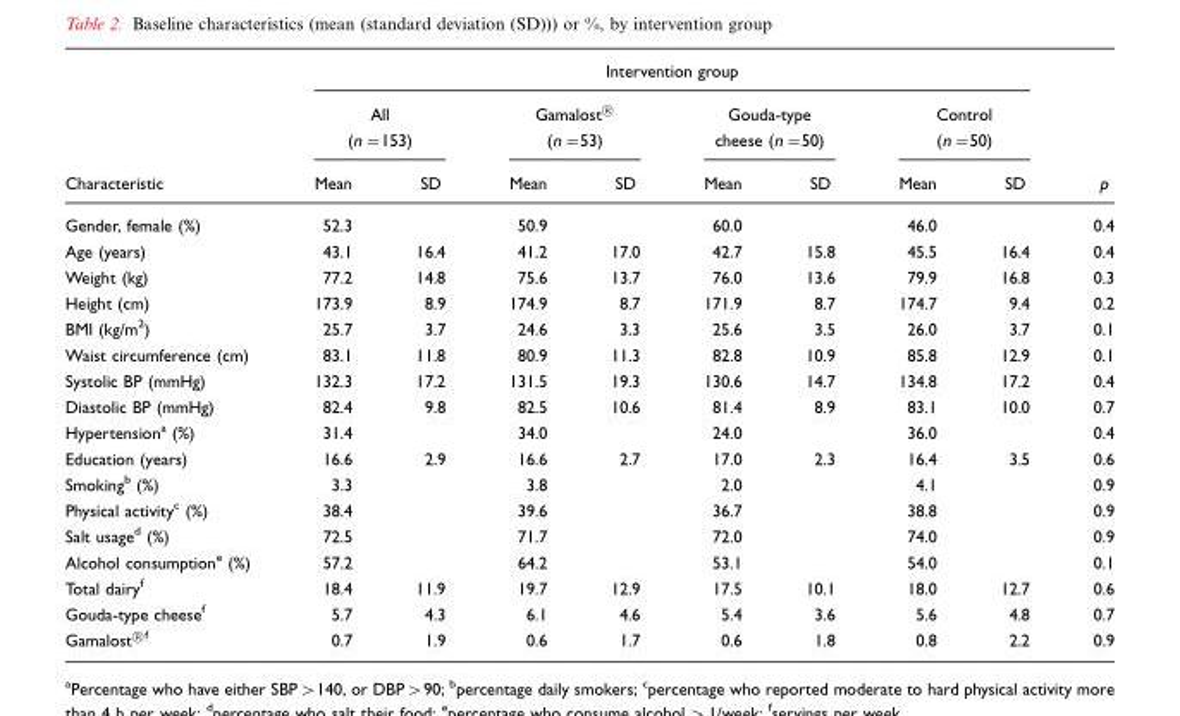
<table><thead><tr><td rowspan="3">Characteristic</td><td colspan="8">Intervention group</td><td rowspan="3">p</td></tr><tr><td colspan="2">All (n=153)</td><td colspan="2">Gamalost† (n�53)</td><td colspan="2">Gouda-type cheese (n=50)</td><td colspan="2">Control (n=50)</td></tr><tr><td>Mean</td><td>SD</td><td>Mean</td><td>SD</td><td>Mean</td><td>SD</td><td>Mean</td><td>SD</td></tr></thead><tbody><tr><td>Gender, female (%)</td><td>52.3</td><td></td><td>50.9</td><td></td><td>60.0</td><td></td><td>46.0</td><td></td><td>0.4</td></tr><tr><td>Age (years)</td><td>43.1</td><td>16.4</td><td>41.2</td><td>17.0</td><td>42.7</td><td>15.8</td><td>45.5</td><td>16.4</td><td>0.4</td></tr><tr><td>Weight (kg)</td><td>77.2</td><td>14.8</td><td>75.6</td><td>13.7</td><td>76.0</td><td>13.6</td><td>79.9</td><td>16.8</td><td>0.3</td></tr><tr><td>Height (cm)</td><td>173.9</td><td>8.9</td><td>174.9</td><td>8.7</td><td>171.9</td><td>8.7</td><td>174.7</td><td>9.4</td><td>0.2</td></tr><tr><td>BMI (kg/m<sup>2</sup>)</td><td>25.7</td><td>3.7</td><td>24.6</td><td>3.3</td><td>25.6</td><td>3.5</td><td>26.0</td><td>3.7</td><td>0.1</td></tr><tr><td>Waist circumference (cm)</td><td>83.1</td><td>11.8</td><td>80.9</td><td>11.3</td><td>82.8</td><td>10.9</td><td>85.8</td><td>12.9</td><td>0.1</td></tr><tr><td>Systolic BP (mmHg)</td><td>132.3</td><td>17.2</td><td>131.5</td><td>19.3</td><td>130.6</td><td>14.7</td><td>134.8</td><td>17.2</td><td>0.4</td></tr><tr><td>Diastolic BP (mmHg)</td><td>82.4</td><td>9.8</td><td>82.5</td><td>10.6</td><td>81.4</td><td>8.9</td><td>83.1</td><td>10.0</td><td>0.7</td></tr><tr><td>Hypertension<sup>a</sup> (%)</td><td>31.4</td><td></td><td>34.0</td><td></td><td>24.0</td><td></td><td>36.0</td><td></td><td>0.4</td></tr><tr><td>Education (years)</td><td>16.6</td><td>2.9</td><td>16.6</td><td>2.7</td><td>17.0</td><td>2.3</td><td>16.4</td><td>3.5</td><td>0.6</td></tr><tr><td>Smoking<sup>b</sup> (%)</td><td>3.3</td><td></td><td>3.8</td><td></td><td>2.0</td><td></td><td>4.1</td><td></td><td>0.9</td></tr><tr><td>Physical activity<sup>c</sup> (%)</td><td>38.4</td><td></td><td>39.6</td><td></td><td>36.7</td><td></td><td>38.8</td><td></td><td>0.9</td></tr><tr><td>Salt usage<sup>d</sup> (%)</td><td>72.5</td><td></td><td>71.7</td><td></td><td>72.0</td><td></td><td>74.0</td><td></td><td>0.9</td></tr><tr><td>Alcohol consumption<sup>e</sup> (%)</td><td>57.2</td><td></td><td>64.2</td><td></td><td>53.1</td><td></td><td>54.0</td><td></td><td>0.1</td></tr><tr><td>Total dairy<sup>f</sup></td><td>18.4</td><td>11.9</td><td>19.7</td><td>12.9</td><td>17.5</td><td>10.1</td><td>18.0</td><td>12.7</td><td>0.6</td></tr><tr><td>Gouda-type cheese<sup>f</sup></td><td>5.7</td><td>4.3</td><td>6.1</td><td>4.6</td><td>5.4</td><td>3.6</td><td>5.6</td><td>4.8</td><td>0.7</td></tr><tr><td>Gamalost†f</td><td>0.7</td><td>1.9</td><td>0.6</td><td>1.7</td><td>0.6</td><td>1.8</td><td>0.8</td><td>2.2</td><td>0.9</td></tr></tbody></table>